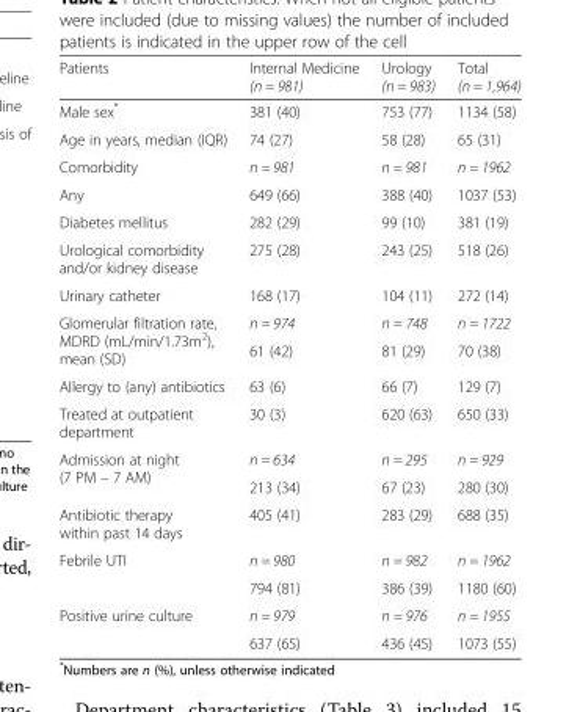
<table><thead><tr><td>Patients</td><td>Internal Medicine (n = 981)</td><td>Urology (n = 983)</td><td>Total (n = 1,964)</td></tr></thead><tbody><tr><td>Male sex*</td><td>381 (40)</td><td>753 (77)</td><td>1134 (58)</td></tr><tr><td>Age in years, median (IQR)</td><td>74 (27)</td><td>58 (28)</td><td>65 (31)</td></tr><tr><td>Comorbidity</td><td>n = 981</td><td>n = 981</td><td>n = 1962</td></tr><tr><td>Any</td><td>649 (66)</td><td>388 (40)</td><td>1037 (53)</td></tr><tr><td>Diabetes mellitus</td><td>282 (29)</td><td>99 (10)</td><td>381 (19)</td></tr><tr><td>Urological comorbidity and/or kidney disease</td><td>275 (28)</td><td>243 (25)</td><td>518 (26)</td></tr><tr><td>Urinary catheter</td><td>168 (17)</td><td>104 (11)</td><td>272 (14)</td></tr><tr><td rowspan="2">Glomerular filtration rate, MDRD (mL/min/1.73m<sup>2</sup>), mean (SD)</td><td>n = 974</td><td>n = 748</td><td>n = 1722</td></tr><tr><td>61 (42)</td><td>81 (29)</td><td>70 (38)</td></tr><tr><td>Allergy to (any) antibiotics</td><td>63 (6)</td><td>66 (7)</td><td>129 (7)</td></tr><tr><td>Treated at outpatient department</td><td>30 (3)</td><td>620 (63)</td><td>650 (33)</td></tr><tr><td rowspan="2">Admission at night (7 PM – 7 AM)</td><td>n = 634</td><td>n = 295</td><td>n = 929</td></tr><tr><td>213 (34)</td><td>67 (23)</td><td>280 (30)</td></tr><tr><td>Antibiotic therapy within past 14 days</td><td>405 (41)</td><td>283 (29)</td><td>688 (35)</td></tr><tr><td rowspan="2">Febrile UTI</td><td>n = 980</td><td>n = 982</td><td>n = 1962</td></tr><tr><td>794 (81)</td><td>386 (39)</td><td>1180 (60)</td></tr><tr><td rowspan="2">Positive urine culture</td><td>n = 979</td><td>n = 976</td><td>n = 1955</td></tr><tr><td>637 (65)</td><td>436 (45)</td><td>1073 (55)</td></tr></tbody></table>